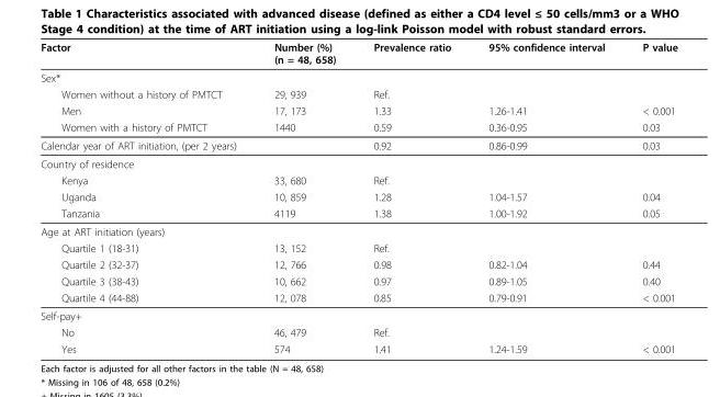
<table><thead><tr><td>Factor</td><td>Number (%) (n = 48, 658)</td><td>Prevalence ratio</td><td>95% confidence interval</td><td>P value</td></tr></thead><tbody><tr><td colspan="5">Sex*</td></tr><tr><td>Women without a history of PMTCT</td><td>29, 939</td><td>Ref.</td><td></td><td></td></tr><tr><td>Men</td><td>17, 173</td><td>1.33</td><td>1.26-1.41</td><td>&lt; 0.001</td></tr><tr><td>Women with a history of PMTCT</td><td>1440</td><td>0.59</td><td>0.36-0.95</td><td>0.03</td></tr><tr><td>Calendar year of ART initiation, (per 2 years)</td><td></td><td>0.92</td><td>0.86-0.99</td><td>0.03</td></tr><tr><td colspan="5">Country of residence</td></tr><tr><td>Kenya</td><td>33, 680</td><td>Ref.</td><td></td><td></td></tr><tr><td>Uganda</td><td>10, 859</td><td>1.28</td><td>1.04-1.57</td><td>0.04</td></tr><tr><td>Tanzania</td><td>4119</td><td>1.38</td><td>1.00-1.92</td><td>0.05</td></tr><tr><td colspan="5">Age at ART initiation (years)</td></tr><tr><td>Quartile 1 (18-31)</td><td>13, 152</td><td>Ref.</td><td></td><td></td></tr><tr><td>Quartile 2 (32-37)</td><td>12, 766</td><td>0.98</td><td>0.82-1.04</td><td>0.44</td></tr><tr><td>Quartile 3 (38-43)</td><td>10, 662</td><td>0.97</td><td>0.89-1.05</td><td>0.40</td></tr><tr><td>Quartile 4 (44-88)</td><td>12, 078</td><td>0.85</td><td>0.79-0.91</td><td>&lt; 0.001</td></tr><tr><td colspan="5">Self-pay+</td></tr><tr><td>No</td><td>46, 479</td><td>Ref.</td><td></td><td></td></tr><tr><td>Yes</td><td>574</td><td>1.41</td><td>1.24-1.59</td><td>&lt; 0.001</td></tr></tbody></table>